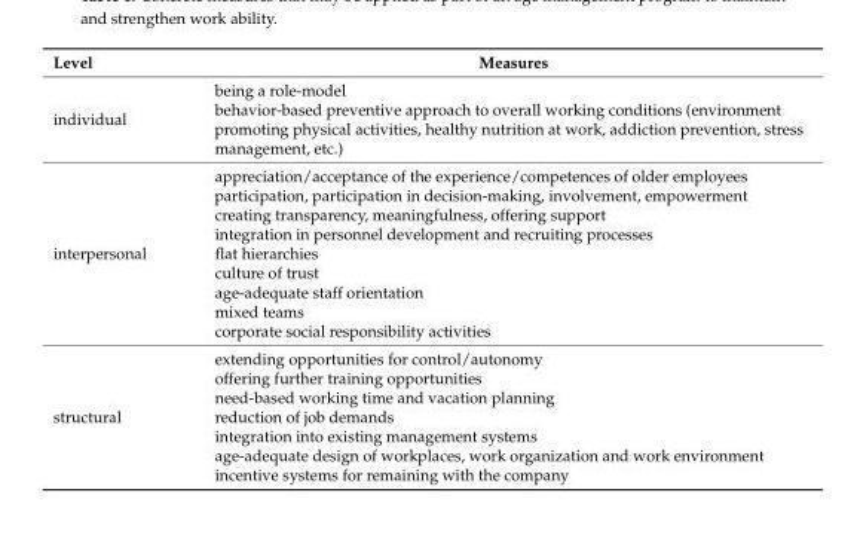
<table><thead><tr><td>Level</td><td>Measures</td></tr></thead><tbody><tr><td>individual</td><td>being a role-model behavior-based preventive approach to overall working conditions (environment promoting physical activities, healthy nutrition at work, addiction prevention, stress management, etc.)</td></tr><tr><td>interpersonal</td><td>appreciation/acceptance of the experience/competences of older employees participation, participation in decision-making, involvement, empowerment creating transparency, meaningfulness, offering support integration in personnel development and recruiting processes flat hierarchies culture of trust age-adequate staff orientation mixed teams corporate social responsibility activities</td></tr><tr><td>structural</td><td>extending opportunities for control/autonomy offering further training opportunities need-based working time and vacation planning reduction of job demands integration into existing management systems age-adequate design of workplaces, work organization and work environment incentive systems for remaining with the company</td></tr></tbody></table>